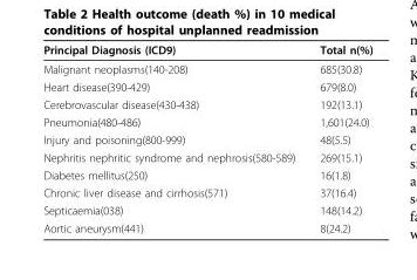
<table><thead><tr><td>Principal Diagnosis (ICD9)</td><td>Total n(%)</td></tr></thead><tbody><tr><td>Malignant neoplasms(140-208)</td><td>685(30.8)</td></tr><tr><td>Heart disease(390-429)</td><td>679(8.0)</td></tr><tr><td>Cerebrovascular disease(430-438)</td><td>192(13.1)</td></tr><tr><td>Pneumonia(480-486)</td><td>1,601(24.0)</td></tr><tr><td>Injury and poisoning(800-999)</td><td>48(5.5)</td></tr><tr><td>Nephritis nephritic syndrome and nephrosis(580-589)</td><td>269(15.1)</td></tr><tr><td>Diabetes mellitus(250)</td><td>16(1.8)</td></tr><tr><td>Chronic liver disease and cirrhosis(571)</td><td>37(16.4)</td></tr><tr><td>Septicaemia(038)</td><td>148(14.2)</td></tr><tr><td>Aortic aneurysm(441)</td><td>8(24.2)</td></tr></tbody></table>